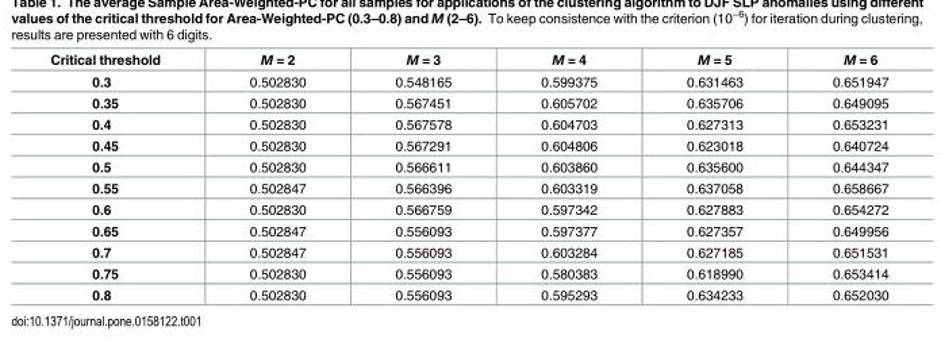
<table><thead><tr><td>Critical threshold</td><td>M = 2</td><td>M = 3</td><td>M = 4</td><td>M = 5</td><td>M = 6</td></tr></thead><tbody><tr><td>0.3</td><td>0.502830</td><td>0.548165</td><td>0.599375</td><td>0.631463</td><td>0.651947</td></tr><tr><td>0.35</td><td>0.502830</td><td>0.567451</td><td>0.605702</td><td>0.635706</td><td>0.649095</td></tr><tr><td>0.4</td><td>0.502830</td><td>0.567578</td><td>0.604703</td><td>0.627313</td><td>0.653231</td></tr><tr><td>0.45</td><td>0.502830</td><td>0.567291</td><td>0.604806</td><td>0.623018</td><td>0.640724</td></tr><tr><td>0.5</td><td>0.502830</td><td>0.566611</td><td>0.603860</td><td>0.635600</td><td>0.644347</td></tr><tr><td>0.55</td><td>0.502847</td><td>0.566396</td><td>0.603319</td><td>0.637058</td><td>0.658667</td></tr><tr><td>0.6</td><td>0.502830</td><td>0.566759</td><td>0.597342</td><td>0.627883</td><td>0.654272</td></tr><tr><td>0.65</td><td>0.502847</td><td>0.556093</td><td>0.597377</td><td>0.627357</td><td>0.649956</td></tr><tr><td>0.7</td><td>0.502847</td><td>0.556093</td><td>0.603284</td><td>0.627185</td><td>0.651531</td></tr><tr><td>0.75</td><td>0.502830</td><td>0.556093</td><td>0.580383</td><td>0.618990</td><td>0.653414</td></tr><tr><td>0.8</td><td>0.502830</td><td>0.556093</td><td>0.595293</td><td>0.634233</td><td>0.652030</td></tr></tbody></table>